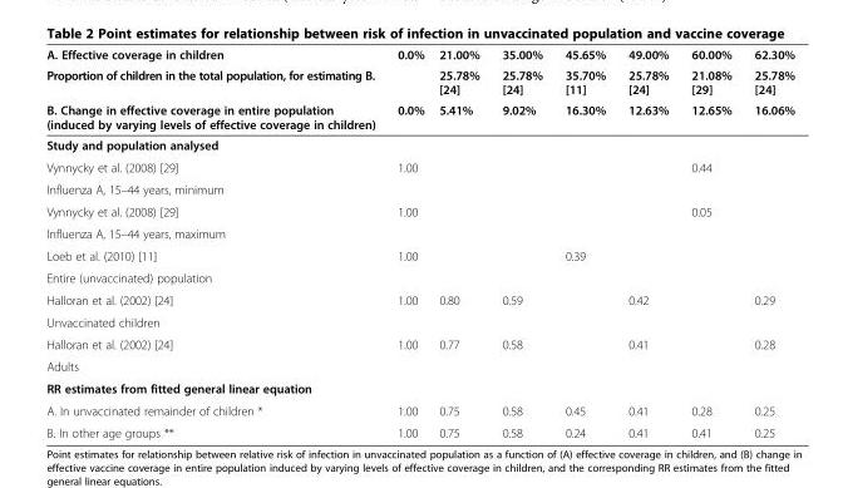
<table><thead><tr><td rowspan="3">A. Effective coverage in children Proportion of children in the total population, for estimating B. B. Change in effective coverage in entire population (induced by varying levels of effective coverage in children)</td><td rowspan="3">0.0% 0.0%</td><td rowspan="3">21.00% 25.78% [24] 5.41%</td><td rowspan="3">35.00% 25.78% [24] 9.02%</td><td rowspan="3">45.65% 35.70% [11] 16.30%</td><td rowspan="3">49.00% 25.78% [24] 12.63%</td><td rowspan="3">60.00% 21.08% [29] 12.65%</td><td rowspan="3">62.30% 25.78% [24] 16.06%</td></tr><tr></tr><tr></tr></thead><tbody><tr><td colspan="8">Study and population analysed</td></tr><tr><td>Vynnycky et al. (2008) [29]</td><td rowspan="2">1.00</td><td rowspan="2"></td><td rowspan="2"></td><td rowspan="2"></td><td rowspan="2"></td><td rowspan="2">0.44</td><td rowspan="2"></td></tr><tr><td>Influenza A, 15–44 years, minimum</td></tr><tr><td>Vynnycky et al. (2008) [29]</td><td rowspan="2">1.00</td><td rowspan="2"></td><td rowspan="2"></td><td rowspan="2"></td><td rowspan="2"></td><td rowspan="2">0.05</td><td rowspan="2"></td></tr><tr><td>Influenza A, 15–44 years, maximum</td></tr><tr><td>Loeb et al. (2010) [11]</td><td rowspan="2">1.00</td><td rowspan="2"></td><td rowspan="2"></td><td rowspan="2">0.39</td><td rowspan="2"></td><td rowspan="2"></td><td rowspan="2"></td></tr><tr><td>Entire (unvaccinated) population</td></tr><tr><td>Halloran et al. (2002) [24]</td><td rowspan="2">1.00</td><td rowspan="2">0.80</td><td rowspan="2">0.59</td><td rowspan="2"></td><td rowspan="2">0.42</td><td rowspan="2"></td><td rowspan="2">0.29</td></tr><tr><td>Unvaccinated children</td></tr><tr><td>Halloran et al. (2002) [24]</td><td rowspan="2">1.00</td><td rowspan="2">0.77</td><td rowspan="2">0.58</td><td rowspan="2"></td><td rowspan="2">0.41</td><td rowspan="2"></td><td rowspan="2">0.28</td></tr><tr><td>Adults</td></tr><tr><td colspan="8">RR estimates from fitted general linear equation</td></tr><tr><td>A. In unvaccinated remainder of children *</td><td>1.00</td><td>0.75</td><td>0.58</td><td>0.45</td><td>0.41</td><td>0.28</td><td>0.25</td></tr><tr><td>B. In other age groups **</td><td>1.00</td><td>0.75</td><td>0.58</td><td>0.24</td><td>0.41</td><td>0.41</td><td>0.25</td></tr></tbody></table>